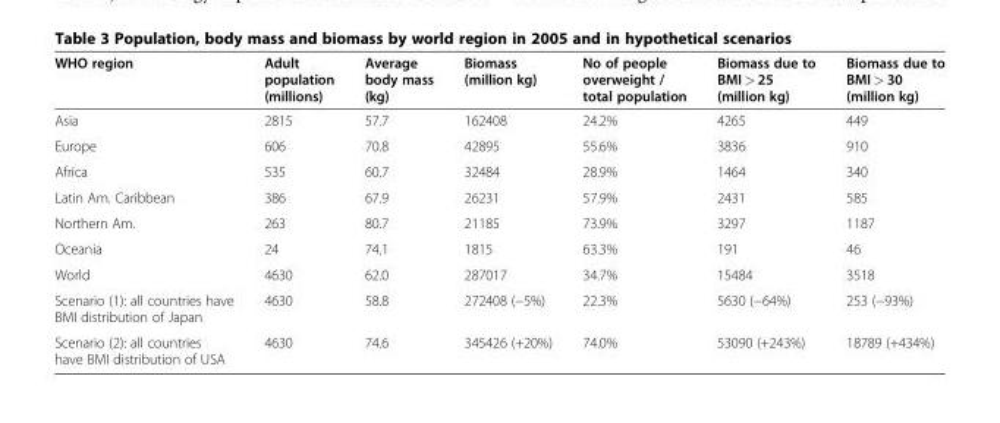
<table><thead><tr><td>WHO region</td><td>Adult population (millions)</td><td>Average body mass (kg)</td><td>Biomass (million kg)</td><td>No of people overweight / total population</td><td>Biomass due to BMI &gt; 25 (million kg)</td><td>Biomass due to BMI &gt; 30 (million kg)</td></tr></thead><tbody><tr><td>Asia</td><td>2815</td><td>57.7</td><td>162408</td><td>24.2%</td><td>4265</td><td>449</td></tr><tr><td>Europe</td><td>606</td><td>70.8</td><td>42895</td><td>55.6%</td><td>3836</td><td>910</td></tr><tr><td>Africa</td><td>535</td><td>60.7</td><td>32484</td><td>28.9%</td><td>1464</td><td>340</td></tr><tr><td>Latin Am. Caribbean</td><td>386</td><td>67.9</td><td>26231</td><td>57.9%</td><td>2431</td><td>585</td></tr><tr><td>Northern Am.</td><td>263</td><td>80.7</td><td>21185</td><td>73.9%</td><td>3297</td><td>1187</td></tr><tr><td>Oceania</td><td>24</td><td>74.1</td><td>1815</td><td>63.3%</td><td>191</td><td>46</td></tr><tr><td>World</td><td>4630</td><td>62.0</td><td>287017</td><td>34.7%</td><td>15484</td><td>3518</td></tr><tr><td>Scenario (1): all countries have BMI distribution of Japan</td><td>4630</td><td>58.8</td><td>272408 (−5%)</td><td>22.3%</td><td>5630 (−64%)</td><td>253 (−93%)</td></tr><tr><td>Scenario (2): all countries have BMI distribution of USA</td><td>4630</td><td>74.6</td><td>345426 (+20%)</td><td>74.0%</td><td>53090 (+243%)</td><td>18789 (+434%)</td></tr></tbody></table>